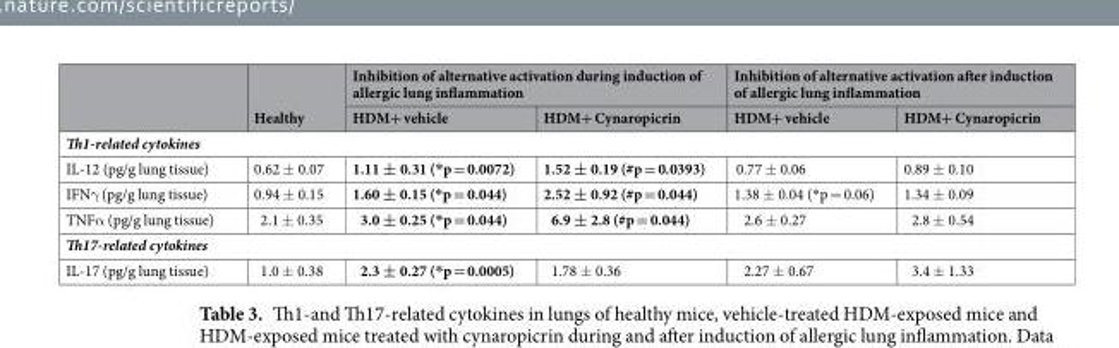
<table><thead><tr><td rowspan="2"></td><td rowspan="2">Healthy</td><td colspan="2">Inhibition of alternative activation during induction of allergic lung inflammation</td><td colspan="2">Inhibition of alternative activation after induction of allergic lung inflammation</td></tr><tr><td>HDM+ vehicle</td><td>HDM+ Cynaropicrin</td><td>HDM+ vehicle</td><td>HDM+ Cynaropicrin</td></tr></thead><tbody><tr><td colspan="6">Th1-related cytokines</td></tr><tr><td>IL-12 (pg/g lung tissue)</td><td>0.62 ± 0.07</td><td>1.11 ± 0.31 (*p = 0.0072)</td><td>1.52 ± 0.19 (#p = 0.0393)</td><td>0.77 ± 0.06</td><td>0.89 ± 0.10</td></tr><tr><td>IFNγ (pg/g lung tissue)</td><td>0.94 ± 0.15</td><td>1.60 ± 0.15 (*p = 0.044)</td><td>2.52 ± 0.92 (#p = 0.044)</td><td>1.38 ± 0.04 (*p = 0.06)</td><td>1.34 ± 0.09</td></tr><tr><td>TNFα (pg/g lung tissue)</td><td>2.1 ± 0.35</td><td>3.0 ± 0.25 (*p = 0.044)</td><td>6.9 ± 2.8 (#p = 0.044)</td><td>2.6 ± 0.27</td><td>2.8 ± 0.54</td></tr><tr><td colspan="6">Th17-related cytokines</td></tr><tr><td>IL-17 (pg/g lung tissue)</td><td>1.0 ± 0.38</td><td>2.3 ± 0.27 (*p = 0.0005)</td><td>1.78 ± 0.36</td><td>2.27 ± 0.67</td><td>3.4 ± 1.33</td></tr></tbody></table>